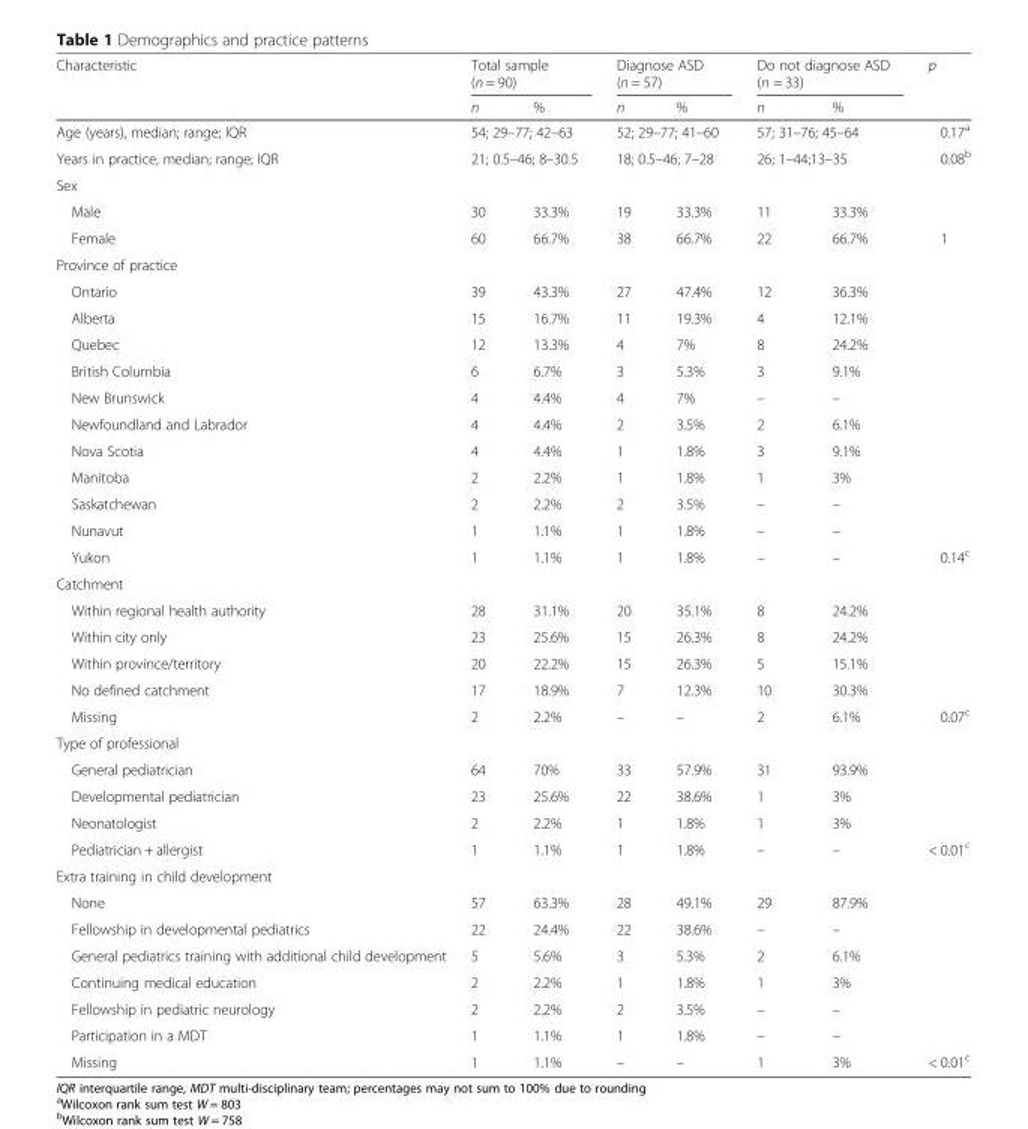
<table><thead><tr><td rowspan="2">Characteristic</td><td colspan="2">Total sample (n = 90)</td><td colspan="2">Diagnose ASD (n = 57)</td><td colspan="2">Do not diagnose ASD (n = 33)</td><td rowspan="2">p</td></tr><tr><td>n</td><td>%</td><td>n</td><td>%</td><td>n</td><td>%</td></tr></thead><tbody><tr><td>Age (years), median; range; IQR</td><td colspan="2">54; 29–77; 42–63</td><td colspan="2">52; 29–77; 41–60</td><td colspan="2">57; 31–76; 45–64</td><td>0.17<sup>a</sup></td></tr><tr><td>Years in practice, median; range; IQR</td><td colspan="2">21; 0.5–46; 8–30.5</td><td colspan="2">18; 0.5–46; 7–28</td><td colspan="2">26; 1–44;13–35</td><td>0.08<sup>b</sup></td></tr><tr><td colspan="8">Sex</td></tr><tr><td>Male</td><td>30</td><td>33.3%</td><td>19</td><td>33.3%</td><td>11</td><td>33.3%</td><td></td></tr><tr><td>Female</td><td>60</td><td>66.7%</td><td>38</td><td>66.7%</td><td>22</td><td>66.7%</td><td>1</td></tr><tr><td colspan="8">Province of practice</td></tr><tr><td>Ontario</td><td>39</td><td>43.3%</td><td>27</td><td>47.4%</td><td>12</td><td>36.3%</td><td></td></tr><tr><td>Alberta</td><td>15</td><td>16.7%</td><td>11</td><td>19.3%</td><td>4</td><td>12.1%</td><td></td></tr><tr><td>Quebec</td><td>12</td><td>13.3%</td><td>4</td><td>7%</td><td>8</td><td>24.2%</td><td></td></tr><tr><td>British Columbia</td><td>6</td><td>6.7%</td><td>3</td><td>5.3%</td><td>3</td><td>9.1%</td><td></td></tr><tr><td>New Brunswick</td><td>4</td><td>4.4%</td><td>4</td><td>7%</td><td>–</td><td>–</td><td></td></tr><tr><td>Newfoundland and Labrador</td><td>4</td><td>4.4%</td><td>2</td><td>3.5%</td><td>2</td><td>6.1%</td><td></td></tr><tr><td>Nova Scotia</td><td>4</td><td>4.4%</td><td>1</td><td>1.8%</td><td>3</td><td>9.1%</td><td></td></tr><tr><td>Manitoba</td><td>2</td><td>2.2%</td><td>1</td><td>1.8%</td><td>1</td><td>3%</td><td></td></tr><tr><td>Saskatchewan</td><td>2</td><td>2.2%</td><td>2</td><td>3.5%</td><td>–</td><td>–</td><td></td></tr><tr><td>Nunavut</td><td>1</td><td>1.1%</td><td>1</td><td>1.8%</td><td>–</td><td>–</td><td></td></tr><tr><td>Yukon</td><td>1</td><td>1.1%</td><td>1</td><td>1.8%</td><td>–</td><td>–</td><td>0.14<sup>c</sup></td></tr><tr><td colspan="8">Catchment</td></tr><tr><td>Within regional health authority</td><td>28</td><td>31.1%</td><td>20</td><td>35.1%</td><td>8</td><td>24.2%</td><td></td></tr><tr><td>Within city only</td><td>23</td><td>25.6%</td><td>15</td><td>26.3%</td><td>8</td><td>24.2%</td><td></td></tr><tr><td>Within province/territory</td><td>20</td><td>22.2%</td><td>15</td><td>26.3%</td><td>5</td><td>15.1%</td><td></td></tr><tr><td>No defined catchment</td><td>17</td><td>18.9%</td><td>7</td><td>12.3%</td><td>10</td><td>30.3%</td><td></td></tr><tr><td>Missing</td><td>2</td><td>2.2%</td><td>–</td><td>–</td><td>2</td><td>6.1%</td><td>0.07<sup>c</sup></td></tr><tr><td colspan="8">Type of professional</td></tr><tr><td>General pediatrician</td><td>64</td><td>70%</td><td>33</td><td>57.9%</td><td>31</td><td>93.9%</td><td></td></tr><tr><td>Developmental pediatrician</td><td>23</td><td>25.6%</td><td>22</td><td>38.6%</td><td>1</td><td>3%</td><td></td></tr><tr><td>Neonatologist</td><td>2</td><td>2.2%</td><td>1</td><td>1.8%</td><td>1</td><td>3%</td><td></td></tr><tr><td>Pediatrician + allergist</td><td>1</td><td>1.1%</td><td>1</td><td>1.8%</td><td>–</td><td>–</td><td>&lt; 0.01<sup>c</sup></td></tr><tr><td colspan="8">Extra training in child development</td></tr><tr><td>None</td><td>57</td><td>63.3%</td><td>28</td><td>49.1%</td><td>29</td><td>87.9%</td><td></td></tr><tr><td>Fellowship in developmental pediatrics</td><td>22</td><td>24.4%</td><td>22</td><td>38.6%</td><td>–</td><td>–</td><td></td></tr><tr><td>General pediatrics training with additional child development</td><td>5</td><td>5.6%</td><td>3</td><td>5.3%</td><td>2</td><td>6.1%</td><td></td></tr><tr><td>Continuing medical education</td><td>2</td><td>2.2%</td><td>1</td><td>1.8%</td><td>1</td><td>3%</td><td></td></tr><tr><td>Fellowship in pediatric neurology</td><td>2</td><td>2.2%</td><td>2</td><td>3.5%</td><td>–</td><td>–</td><td></td></tr><tr><td>Participation in a MDT</td><td>1</td><td>1.1%</td><td>1</td><td>1.8%</td><td>–</td><td>–</td><td></td></tr><tr><td>Missing</td><td>1</td><td>1.1%</td><td>–</td><td>–</td><td>1</td><td>3%</td><td>&lt; 0.01<sup>c</sup></td></tr></tbody></table>